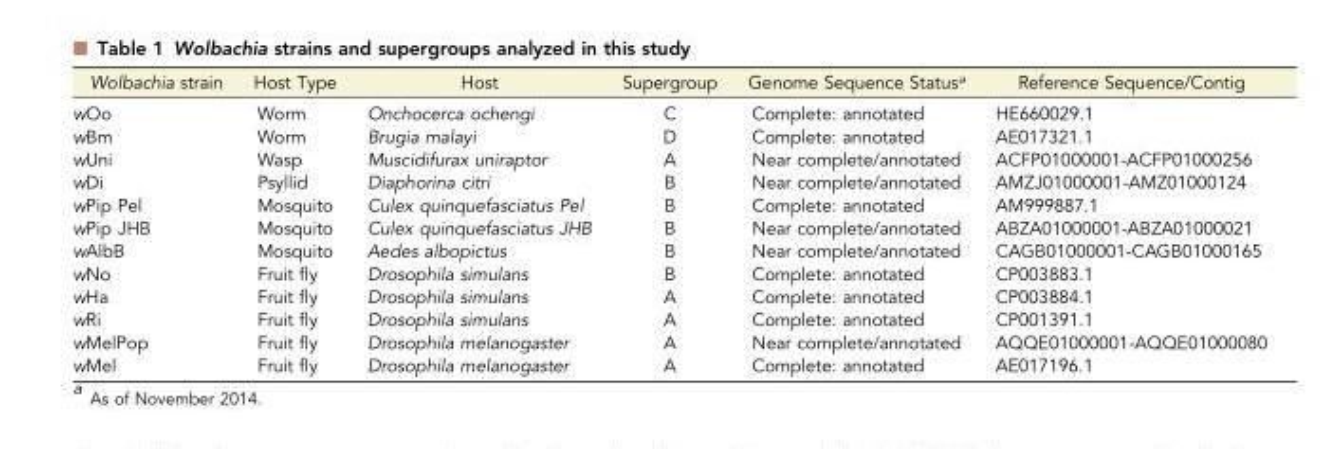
<table><thead><tr><td>Wolbachia strain</td><td>Host Type</td><td>Host</td><td>Supergroup</td><td>Genome Sequence Status<sup>a</sup></td><td>Reference Sequence/Contig</td></tr></thead><tbody><tr><td>wOo</td><td>Worm</td><td>Onchocerca ochengi</td><td>C</td><td>Complete: annotated</td><td>HE660029.1</td></tr><tr><td>wBm</td><td>Worm</td><td>Brugia malayi</td><td>D</td><td>Complete: annotated</td><td>AE017321.1</td></tr><tr><td>wUni</td><td>Wasp</td><td>Muscidifurax uniraptor</td><td>A</td><td>Near complete/annotated</td><td>ACFP01000001-ACFP01000256</td></tr><tr><td>wDi</td><td>Psyllid</td><td>Diaphorina citri</td><td>B</td><td>Near complete/annotated</td><td>AMZJ01000001-AMZ01000124</td></tr><tr><td>wPip Pel</td><td>Mosquito</td><td>Culex quinquefasciatus Pel</td><td>B</td><td>Complete: annotated</td><td>AM999887.1</td></tr><tr><td>wPip JHB</td><td>Mosquito</td><td>Culex quinquefasciatus JHB</td><td>B</td><td>Near complete/annotated</td><td>ABZA01000001-ABZA01000021</td></tr><tr><td>wAlbB</td><td>Mosquito</td><td>Aedes albopictus</td><td>B</td><td>Near complete/annotated</td><td>CAGB01000001-CAGB01000165</td></tr><tr><td>wNo</td><td>Fruit fly</td><td>Drosophila simulans</td><td>B</td><td>Complete: annotated</td><td>CP003883.1</td></tr><tr><td>wHa</td><td>Fruit fly</td><td>Drosophila simulans</td><td>A</td><td>Complete: annotated</td><td>CP003884.1</td></tr><tr><td>wRi</td><td>Fruit fly</td><td>Drosophila simulans</td><td>A</td><td>Complete: annotated</td><td>CP001391.1</td></tr><tr><td>wMelPop</td><td>Fruit fly</td><td>Drosophila melanogaster</td><td>A</td><td>Near complete/annotated</td><td>AQQE01000001-AQQE01000080</td></tr><tr><td>wMel</td><td>Fruit fly</td><td>Drosophila melanogaster</td><td>A</td><td>Complete: annotated</td><td>AE017196.1</td></tr></tbody></table>